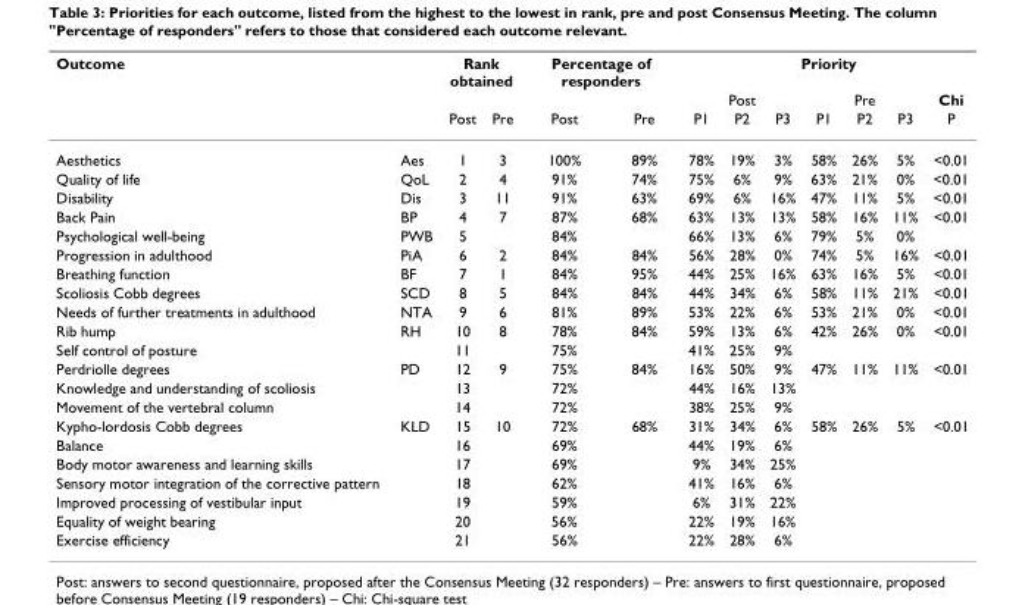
<table><thead><tr><td rowspan="3">Outcome</td><td rowspan="3"></td><td colspan="2">Rank obtained</td><td colspan="2">Percentage of responders</td><td colspan="7">Priority</td></tr><tr><td rowspan="2">Post</td><td rowspan="2">Pre</td><td rowspan="2">Post</td><td rowspan="2">Pre</td><td colspan="3">Post</td><td colspan="3">Pre</td><td rowspan="2">Chi P</td></tr><tr><td>P1</td><td>P2</td><td>P3</td><td>P1</td><td>P2</td><td>P3</td></tr></thead><tbody><tr><td>Aesthetics</td><td>Aes</td><td>1</td><td>3</td><td>100%</td><td>89%</td><td>78%</td><td>19%</td><td>3%</td><td>58%</td><td>26%</td><td>5%</td><td>&lt;0.01</td></tr><tr><td>Quality of life</td><td>QoL</td><td>2</td><td>4</td><td>91%</td><td>74%</td><td>75%</td><td>6%</td><td>9%</td><td>63%</td><td>21%</td><td>0%</td><td>&lt;0.01</td></tr><tr><td>Disability</td><td>Dis</td><td>3</td><td>11</td><td>91%</td><td>63%</td><td>69%</td><td>6%</td><td>16%</td><td>47%</td><td>11%</td><td>5%</td><td>&lt;0.01</td></tr><tr><td>Back Pain</td><td>BP</td><td>4</td><td>7</td><td>87%</td><td>68%</td><td>63%</td><td>13%</td><td>13%</td><td>58%</td><td>16%</td><td>11%</td><td>&lt;0.01</td></tr><tr><td>Psychological well-being</td><td>PWB</td><td>5</td><td></td><td>84%</td><td></td><td>66%</td><td>13%</td><td>6%</td><td>79%</td><td>5%</td><td>0%</td><td></td></tr><tr><td>Progression in adulthood</td><td>PiA</td><td>6</td><td>2</td><td>84%</td><td>84%</td><td>56%</td><td>28%</td><td>0%</td><td>74%</td><td>5%</td><td>16%</td><td>&lt;0.01</td></tr><tr><td>Breathing function</td><td>BF</td><td>7</td><td>1</td><td>84%</td><td>95%</td><td>44%</td><td>25%</td><td>16%</td><td>63%</td><td>16%</td><td>5%</td><td>&lt;0.01</td></tr><tr><td>Scoliosis Cobb degrees</td><td>SCD</td><td>8</td><td>5</td><td>84%</td><td>84%</td><td>44%</td><td>34%</td><td>6%</td><td>58%</td><td>11%</td><td>21%</td><td>&lt;0.01</td></tr><tr><td>Needs of further treatments in adulthood</td><td>NTA</td><td>9</td><td>6</td><td>81%</td><td>89%</td><td>53%</td><td>22%</td><td>6%</td><td>53%</td><td>21%</td><td>0%</td><td>&lt;0.01</td></tr><tr><td>Rib hump</td><td>RH</td><td>10</td><td>8</td><td>78%</td><td>84%</td><td>59%</td><td>13%</td><td>6%</td><td>42%</td><td>26%</td><td>0%</td><td>&lt;0.01</td></tr><tr><td>Self control of posture</td><td></td><td>11</td><td></td><td>75%</td><td></td><td>41%</td><td>25%</td><td>9%</td><td></td><td></td><td></td><td></td></tr><tr><td>Perdriolle degrees</td><td>PD</td><td>12</td><td>9</td><td>75%</td><td>84%</td><td>16%</td><td>50%</td><td>9%</td><td>47%</td><td>11%</td><td>11%</td><td>&lt;0.01</td></tr><tr><td>Knowledge and understanding of scoliosis</td><td></td><td>13</td><td></td><td>72%</td><td></td><td>44%</td><td>16%</td><td>13%</td><td></td><td></td><td></td><td></td></tr><tr><td>Movement of the vertebral column</td><td></td><td>14</td><td></td><td>72%</td><td></td><td>38%</td><td>25%</td><td>9%</td><td></td><td></td><td></td><td></td></tr><tr><td>Kypho-lordosis Cobb degrees</td><td>KLD</td><td>15</td><td>10</td><td>72%</td><td>68%</td><td>31%</td><td>34%</td><td>6%</td><td>58%</td><td>26%</td><td>5%</td><td>&lt;0.01</td></tr><tr><td>Balance</td><td></td><td>16</td><td></td><td>69%</td><td></td><td>44%</td><td>19%</td><td>6%</td><td></td><td></td><td></td><td></td></tr><tr><td>Body motor awareness and learning skills</td><td></td><td>17</td><td></td><td>69%</td><td></td><td>9%</td><td>34%</td><td>25%</td><td></td><td></td><td></td><td></td></tr><tr><td>Sensory motor integration of the corrective pattern</td><td></td><td>18</td><td></td><td>62%</td><td></td><td>41%</td><td>16%</td><td>6%</td><td></td><td></td><td></td><td></td></tr><tr><td>Improved processing of vestibular input</td><td></td><td>19</td><td></td><td>59%</td><td></td><td>6%</td><td>31%</td><td>22%</td><td></td><td></td><td></td><td></td></tr><tr><td>Equality of weight bearing</td><td></td><td>20</td><td></td><td>56%</td><td></td><td>22%</td><td>19%</td><td>16%</td><td></td><td></td><td></td><td></td></tr><tr><td>Exercise efficiency</td><td></td><td>21</td><td></td><td>56%</td><td></td><td>22%</td><td>28%</td><td>6%</td><td></td><td></td><td></td><td></td></tr></tbody></table>